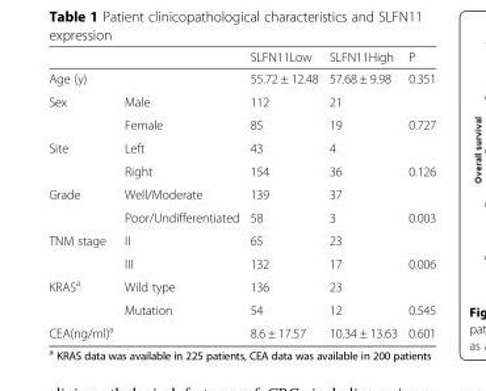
<table><thead><tr><td></td><td></td><td>SLFN11Low</td><td>SLFN11High</td><td>P</td></tr></thead><tbody><tr><td>Age (y)</td><td></td><td>55.72 ± 12.48</td><td>57.68 ± 9.98</td><td>0.351</td></tr><tr><td rowspan="2">Sex</td><td>Male</td><td>112</td><td>21</td><td></td></tr><tr><td>Female</td><td>85</td><td>19</td><td>0.727</td></tr><tr><td rowspan="2">Site</td><td>Left</td><td>43</td><td>4</td><td></td></tr><tr><td>Right</td><td>154</td><td>36</td><td>0.126</td></tr><tr><td rowspan="2">Grade</td><td>Well/Moderate</td><td>139</td><td>37</td><td></td></tr><tr><td>Poor/Undifferentiated</td><td>58</td><td>3</td><td>0.003</td></tr><tr><td rowspan="2">TNM stage</td><td>II</td><td>65</td><td>23</td><td></td></tr><tr><td>III</td><td>132</td><td>17</td><td>0.006</td></tr><tr><td rowspan="2">KRAS<sup>a</sup></td><td>Wild type</td><td>136</td><td>23</td><td></td></tr><tr><td>Mutation</td><td>54</td><td>12</td><td>0.545</td></tr><tr><td>CEA(ng/ml)<sup>a</sup></td><td></td><td>8.6 ± 17.57</td><td>10.34 ± 13.63</td><td>0.601</td></tr></tbody></table>